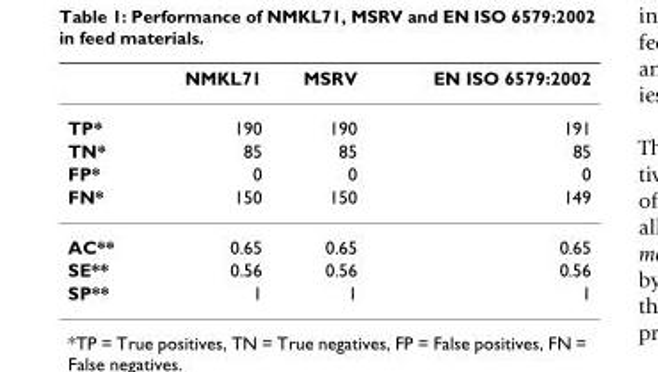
<table><thead><tr><td></td><td>NMKL71</td><td>MSRV</td><td>EN ISO 6579:2002</td></tr></thead><tbody><tr><td>TP*</td><td>190</td><td>190</td><td>191</td></tr><tr><td>TN*</td><td>85</td><td>85</td><td>85</td></tr><tr><td>FP*</td><td>0</td><td>0</td><td>0</td></tr><tr><td>FN*</td><td>150</td><td>150</td><td>149</td></tr><tr><td>AC**</td><td>0.65</td><td>0.65</td><td>0.65</td></tr><tr><td>SE**</td><td>0.56</td><td>0.56</td><td>0.56</td></tr><tr><td>SP**</td><td>1</td><td>1</td><td>1</td></tr></tbody></table>